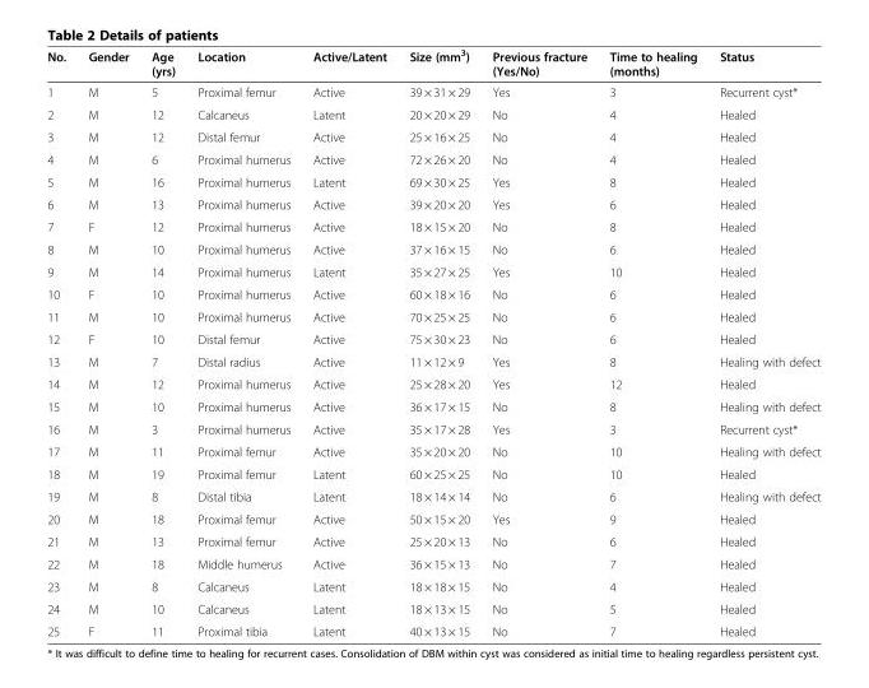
<table><thead><tr><td>No.</td><td>Gender</td><td>Age (yrs)</td><td>Location</td><td>Active/Latent</td><td>Size (mm<sup>3</sup>)</td><td>Previous fracture (Yes/No)</td><td>Time to healing (months)</td><td>Status</td></tr></thead><tbody><tr><td>1</td><td>M</td><td>5</td><td>Proximal femur</td><td>Active</td><td>39 × 31 × 29</td><td>Yes</td><td>3</td><td>Recurrent cyst*</td></tr><tr><td>2</td><td>M</td><td>12</td><td>Calcaneus</td><td>Latent</td><td>20 × 20 × 29</td><td>No</td><td>4</td><td>Healed</td></tr><tr><td>3</td><td>M</td><td>12</td><td>Distal femur</td><td>Active</td><td>25 × 16 × 25</td><td>No</td><td>4</td><td>Healed</td></tr><tr><td>4</td><td>M</td><td>6</td><td>Proximal humerus</td><td>Active</td><td>72 × 26 × 20</td><td>No</td><td>4</td><td>Healed</td></tr><tr><td>5</td><td>M</td><td>16</td><td>Proximal humerus</td><td>Latent</td><td>69 × 30 × 25</td><td>Yes</td><td>8</td><td>Healed</td></tr><tr><td>6</td><td>M</td><td>13</td><td>Proximal humerus</td><td>Active</td><td>39 × 20 × 20</td><td>Yes</td><td>6</td><td>Healed</td></tr><tr><td>7</td><td>F</td><td>12</td><td>Proximal humerus</td><td>Active</td><td>18 × 15 × 20</td><td>No</td><td>8</td><td>Healed</td></tr><tr><td>8</td><td>M</td><td>10</td><td>Proximal humerus</td><td>Active</td><td>37 × 16 × 15</td><td>No</td><td>6</td><td>Healed</td></tr><tr><td>9</td><td>M</td><td>14</td><td>Proximal humerus</td><td>Latent</td><td>35 × 27 × 25</td><td>Yes</td><td>10</td><td>Healed</td></tr><tr><td>10</td><td>F</td><td>10</td><td>Proximal humerus</td><td>Active</td><td>60 × 18 × 16</td><td>No</td><td>6</td><td>Healed</td></tr><tr><td>11</td><td>M</td><td>10</td><td>Proximal humerus</td><td>Active</td><td>70 × 25 × 25</td><td>No</td><td>6</td><td>Healed</td></tr><tr><td>12</td><td>F</td><td>10</td><td>Distal femur</td><td>Active</td><td>75 × 30 × 23</td><td>No</td><td>6</td><td>Healed</td></tr><tr><td>13</td><td>M</td><td>7</td><td>Distal radius</td><td>Active</td><td>11 × 12 × 9</td><td>Yes</td><td>8</td><td>Healing with defect</td></tr><tr><td>14</td><td>M</td><td>12</td><td>Proximal humerus</td><td>Active</td><td>25 × 28 × 20</td><td>Yes</td><td>12</td><td>Healed</td></tr><tr><td>15</td><td>M</td><td>10</td><td>Proximal humerus</td><td>Active</td><td>36 × 17 × 15</td><td>No</td><td>8</td><td>Healing with defect</td></tr><tr><td>16</td><td>M</td><td>3</td><td>Proximal humerus</td><td>Active</td><td>35 × 17 × 28</td><td>Yes</td><td>3</td><td>Recurrent cyst*</td></tr><tr><td>17</td><td>M</td><td>11</td><td>Proximal femur</td><td>Active</td><td>35 × 20 × 20</td><td>No</td><td>10</td><td>Healing with defect</td></tr><tr><td>18</td><td>M</td><td>19</td><td>Proximal femur</td><td>Latent</td><td>60 × 25 × 25</td><td>No</td><td>10</td><td>Healed</td></tr><tr><td>19</td><td>M</td><td>8</td><td>Distal tibia</td><td>Latent</td><td>18 × 14 × 14</td><td>No</td><td>6</td><td>Healing with defect</td></tr><tr><td>20</td><td>M</td><td>18</td><td>Proximal femur</td><td>Active</td><td>50 × 15 × 20</td><td>Yes</td><td>9</td><td>Healed</td></tr><tr><td>21</td><td>M</td><td>13</td><td>Proximal femur</td><td>Active</td><td>25 × 20 × 13</td><td>No</td><td>6</td><td>Healed</td></tr><tr><td>22</td><td>M</td><td>18</td><td>Middle humerus</td><td>Active</td><td>36 × 15 × 13</td><td>No</td><td>7</td><td>Healed</td></tr><tr><td>23</td><td>M</td><td>8</td><td>Calcaneus</td><td>Latent</td><td>18 × 18 × 15</td><td>No</td><td>4</td><td>Healed</td></tr><tr><td>24</td><td>M</td><td>10</td><td>Calcaneus</td><td>Latent</td><td>18 × 13 × 15</td><td>No</td><td>5</td><td>Healed</td></tr><tr><td>25</td><td>F</td><td>11</td><td>Proximal tibia</td><td>Latent</td><td>40 × 13 × 15</td><td>No</td><td>7</td><td>Healed</td></tr></tbody></table>